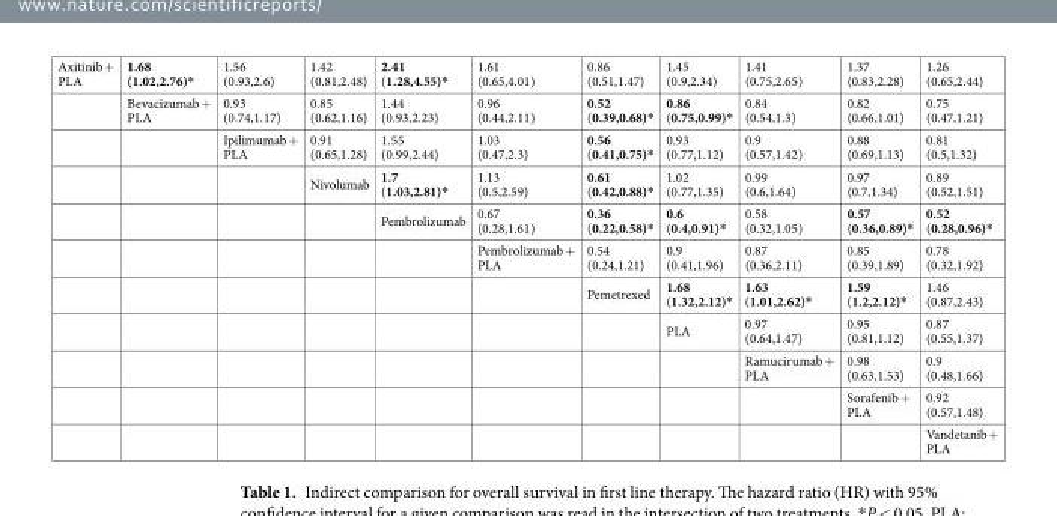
<table><tbody><tr><td rowspan="11">Axitinib + PLA</td><td>1.68 (1.02,2.76)*</td><td>1.56 (0.93,2.6)</td><td>1.42 (0.81,2.48)</td><td>2.41 (1.28,4.55)*</td><td>1.61 (0.65,4.01)</td><td>0.86 (0.51,1.47)</td><td>1.45 (0.9,2.34)</td><td>1.41 (0.75,2.65)</td><td>1.37 (0.83,2.28)</td><td>1.26 (0.65,2.44)</td></tr><tr><td>Bevacizumab + PLA</td><td>0.93 (0.74,1.17)</td><td>0.85 (0.62,1.16)</td><td>1.44 (0.93,2.23)</td><td>0.96 (0.44,2.11)</td><td>0.52 (0.39,0.68)*</td><td>0.86 (0.75,0.99)*</td><td>0.84 (0.54,1.3)</td><td>0.82 (0.66,1.01)</td><td>0.75 (0.47,1.21)</td></tr><tr><td></td><td>Ipilimumab + PLA</td><td>0.91 (0.65,1.28)</td><td>1.55 (0.99,2.44)</td><td>1.03 (0.47,2.3)</td><td>0.56 (0.41,0.75)*</td><td>0.93 (0.77,1.12)</td><td>0.9 (0.57,1.42)</td><td>0.88 (0.69,1.13)</td><td>0.81 (0.5,1.32)</td></tr><tr><td></td><td></td><td>Nivolumab</td><td>1.7 (1.03,2.81)*</td><td>1.13 (0.5,2.59)</td><td>0.61 (0.42,0.88)*</td><td>1.02 (0.77,1.35)</td><td>0.99 (0.6,1.64)</td><td>0.97 (0.7,1.34)</td><td>0.89 (0.52,1.51)</td></tr><tr><td></td><td></td><td></td><td>Pembrolizumab</td><td>0.67 (0.28,1.61)</td><td>0.36 (0.22,0.58)*</td><td>0.6 (0.4,0.91)*</td><td>0.58 (0.32,1.05)</td><td>0.57 (0.36,0.89)*</td><td>0.52 (0.28,0.96)*</td></tr><tr><td></td><td></td><td></td><td></td><td>Pembrolizumab + PLA</td><td>0.54 (0.24,1.21)</td><td>0.9 (0.41,1.96)</td><td>0.87 (0.36,2.11)</td><td>0.85 (0.39,1.89)</td><td>0.78 (0.32,1.92)</td></tr><tr><td></td><td></td><td></td><td></td><td></td><td>Pemetrexed</td><td>1.68 (1.32,2.12)*</td><td>1.63 (1.01,2.62)*</td><td>1.59 (1.2,2.12)*</td><td>1.46 (0.87,2.43)</td></tr><tr><td></td><td></td><td></td><td></td><td></td><td></td><td>PLA</td><td>0.97 (0.64,1.47)</td><td>0.95 (0.81,1.12)</td><td>0.87 (0.55,1.37)</td></tr><tr><td></td><td></td><td></td><td></td><td></td><td></td><td></td><td>Ramucirumab + PLA</td><td>0.98 (0.63,1.53)</td><td>0.9 (0.48,1.66)</td></tr><tr><td></td><td></td><td></td><td></td><td></td><td></td><td></td><td></td><td>Sorafenib + PLA</td><td>0.92 (0.57,1.48)</td></tr><tr><td></td><td></td><td></td><td></td><td></td><td></td><td></td><td></td><td></td><td>Vandetanib + PLA</td></tr></tbody></table>